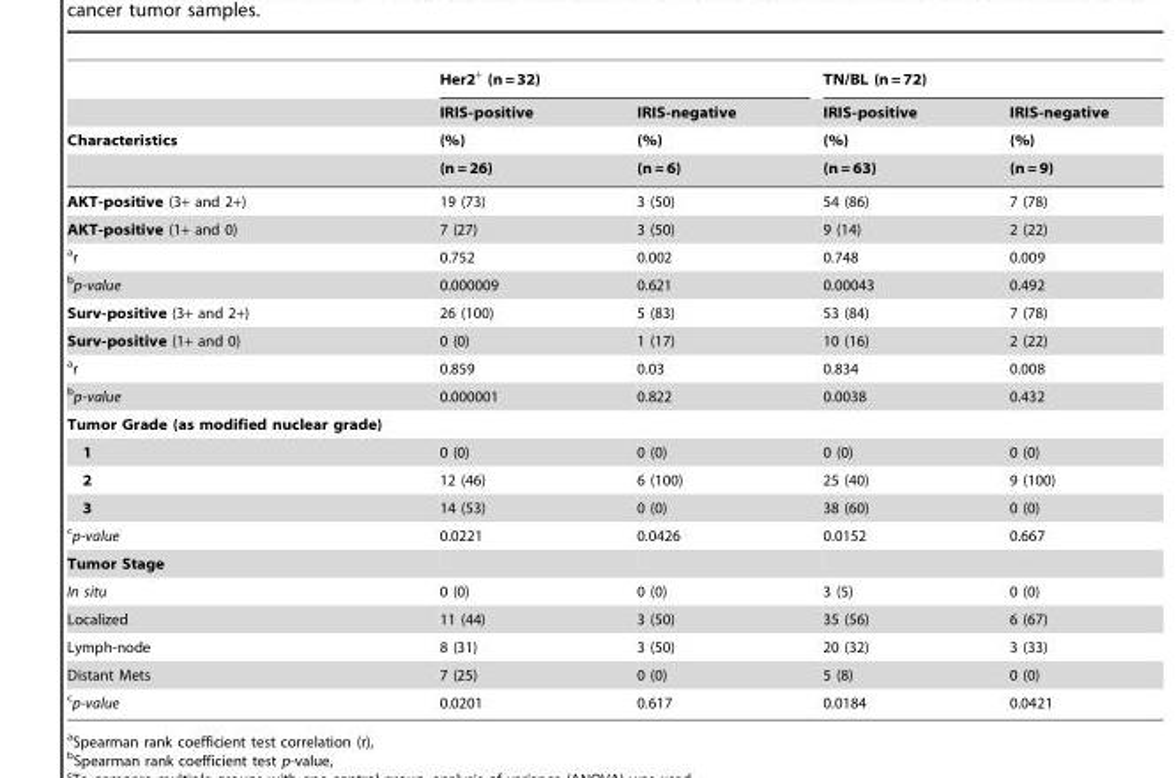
<table><thead><tr><td rowspan="4">Characteristics</td><td colspan="2">Her2<sup>+</sup> (n = 32)</td><td colspan="2">TN/BL (n = 72)</td></tr><tr><td rowspan="3">IRIS-positive (%) (n = 26)</td><td rowspan="3">IRIS-negative (%) (n = 6)</td><td rowspan="3">IRIS-positive (%) (n = 63)</td><td rowspan="3">IRIS-negative (%) (n = 9)</td></tr><tr></tr><tr></tr></thead><tbody><tr><td>AKT-positive (3+ and 2+)</td><td>19 (73)</td><td>3 (50)</td><td>54 (86)</td><td>7 (78)</td></tr><tr><td>AKT-positive (1+ and 0)</td><td>7 (27)</td><td>3 (50)</td><td>9 (14)</td><td>2 (22)</td></tr><tr><td>ar</td><td>0.752</td><td>0.002</td><td>0.748</td><td>0.009</td></tr><tr><td>bp-value</td><td>0.000009</td><td>0.621</td><td>0.00043</td><td>0.492</td></tr><tr><td>Surv-positive (3+ and 2+)</td><td>26 (100)</td><td>5 (83)</td><td>53 (84)</td><td>7 (78)</td></tr><tr><td>Surv-positive (1+ and 0)</td><td>0 (0)</td><td>1 (17)</td><td>10 (16)</td><td>2 (22)</td></tr><tr><td>ar</td><td>0.859</td><td>0.03</td><td>0.834</td><td>0.008</td></tr><tr><td>bp-value</td><td>0.000001</td><td>0.822</td><td>0.0038</td><td>0.432</td></tr><tr><td colspan="5">Tumor Grade (as modified nuclear grade)</td></tr><tr><td>1</td><td>0 (0)</td><td>0 (0)</td><td>0 (0)</td><td>0 (0)</td></tr><tr><td>2</td><td>12 (46)</td><td>6 (100)</td><td>25 (40)</td><td>9 (100)</td></tr><tr><td>3</td><td>14 (53)</td><td>0 (0)</td><td>38 (60)</td><td>0 (0)</td></tr><tr><td>cp-value</td><td>0.0221</td><td>0.0426</td><td>0.0152</td><td>0.667</td></tr><tr><td colspan="5">Tumor Stage</td></tr><tr><td>In situ</td><td>0 (0)</td><td>0 (0)</td><td>3 (5)</td><td>0 (0)</td></tr><tr><td>Localized</td><td>11 (44)</td><td>3 (50)</td><td>35 (56)</td><td>6 (67)</td></tr><tr><td>Lymph-node</td><td>8 (31)</td><td>3 (50)</td><td>20 (32)</td><td>3 (33)</td></tr><tr><td>Distant Mets</td><td>7 (25)</td><td>0 (0)</td><td>5 (8)</td><td>0 (0)</td></tr><tr><td>cp-value</td><td>0.0201</td><td>0.617</td><td>0.0184</td><td>0.0421</td></tr></tbody></table>